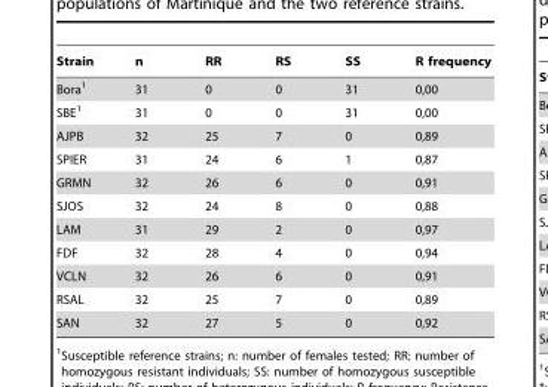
<table><thead><tr><td>Strain</td><td>n</td><td>RR</td><td>RS</td><td>SS</td><td>R frequency</td></tr></thead><tbody><tr><td>Bora<sup>1</sup></td><td>31</td><td>0</td><td>0</td><td>31</td><td>0,00</td></tr><tr><td>SBE<sup>1</sup></td><td>31</td><td>0</td><td>0</td><td>31</td><td>0,00</td></tr><tr><td>AJPB</td><td>32</td><td>25</td><td>7</td><td>0</td><td>0,89</td></tr><tr><td>SPIER</td><td>31</td><td>24</td><td>6</td><td>1</td><td>0,87</td></tr><tr><td>GRMN</td><td>32</td><td>26</td><td>6</td><td>0</td><td>0,91</td></tr><tr><td>SJOS</td><td>32</td><td>24</td><td>8</td><td>0</td><td>0,88</td></tr><tr><td>LAM</td><td>31</td><td>29</td><td>2</td><td>0</td><td>0,97</td></tr><tr><td>FDF</td><td>32</td><td>28</td><td>4</td><td>0</td><td>0,94</td></tr><tr><td>VCLN</td><td>32</td><td>26</td><td>6</td><td>0</td><td>0,91</td></tr><tr><td>RSAL</td><td>32</td><td>25</td><td>7</td><td>0</td><td>0,89</td></tr><tr><td>SAN</td><td>32</td><td>27</td><td>5</td><td>0</td><td>0,92</td></tr></tbody></table>